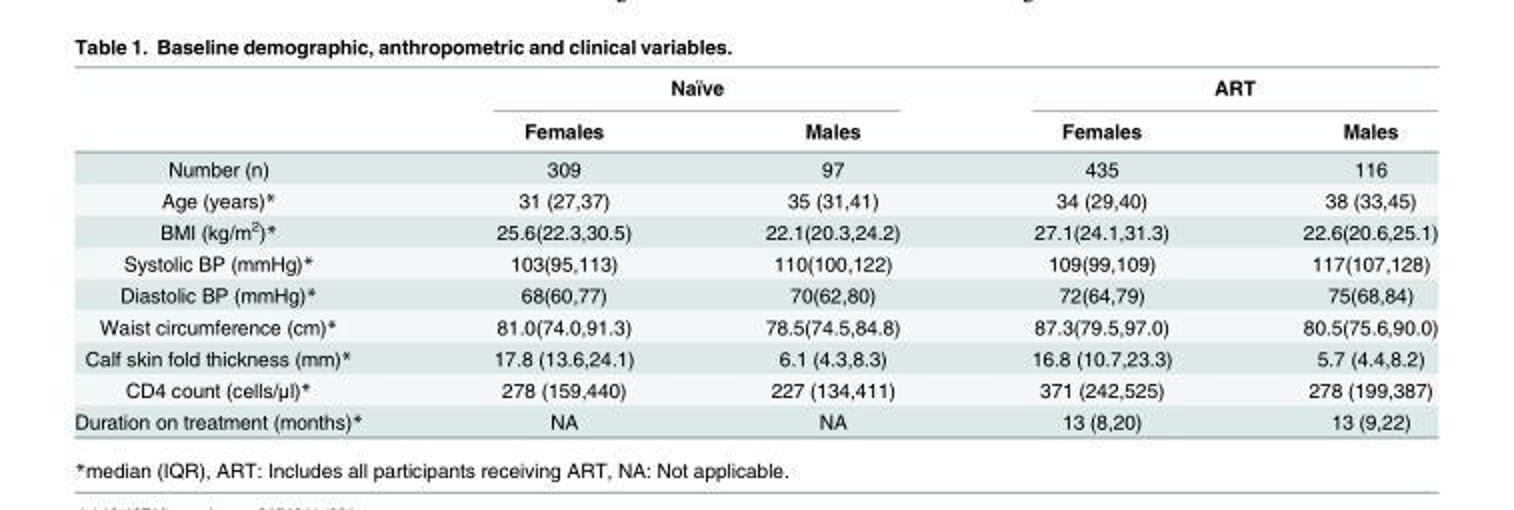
<table><thead><tr><td rowspan="2"></td><td colspan="2">Naïve</td><td colspan="2">ART</td></tr><tr><td>Females</td><td>Males</td><td>Females</td><td>Males</td></tr></thead><tbody><tr><td>Number (n)</td><td>309</td><td>97</td><td>435</td><td>116</td></tr><tr><td>Age (years)*</td><td>31 (27,37)</td><td>35 (31,41)</td><td>34 (29,40)</td><td>38 (33,45)</td></tr><tr><td>BMI (kg/m<sup>2</sup>)*</td><td>25.6(22.3,30.5)</td><td>22.1(20.3,24.2)</td><td>27.1(24.1,31.3)</td><td>22.6(20.6,25.1)</td></tr><tr><td>Systolic BP (mmHg)*</td><td>103(95,113)</td><td>110(100,122)</td><td>109(99,109)</td><td>117(107,128)</td></tr><tr><td>Diastolic BP (mmHg)*</td><td>68(60,77)</td><td>70(62,80)</td><td>72(64,79)</td><td>75(68,84)</td></tr><tr><td>Waist circumference (cm)*</td><td>81.0(74.0,91.3)</td><td>78.5(74.5,84.8)</td><td>87.3(79.5,97.0)</td><td>80.5(75.6,90.0)</td></tr><tr><td>Calf skin fold thickness (mm)*</td><td>17.8 (13.6,24.1)</td><td>6.1 (4.3,8.3)</td><td>16.8 (10.7,23.3)</td><td>5.7 (4.4,8.2)</td></tr><tr><td>CD4 count (cells/μl)*</td><td>278 (159,440)</td><td>227 (134,411)</td><td>371 (242,525)</td><td>278 (199,387)</td></tr><tr><td>Duration on treatment (months)*</td><td>NA</td><td>NA</td><td>13 (8,20)</td><td>13 (9,22)</td></tr></tbody></table>